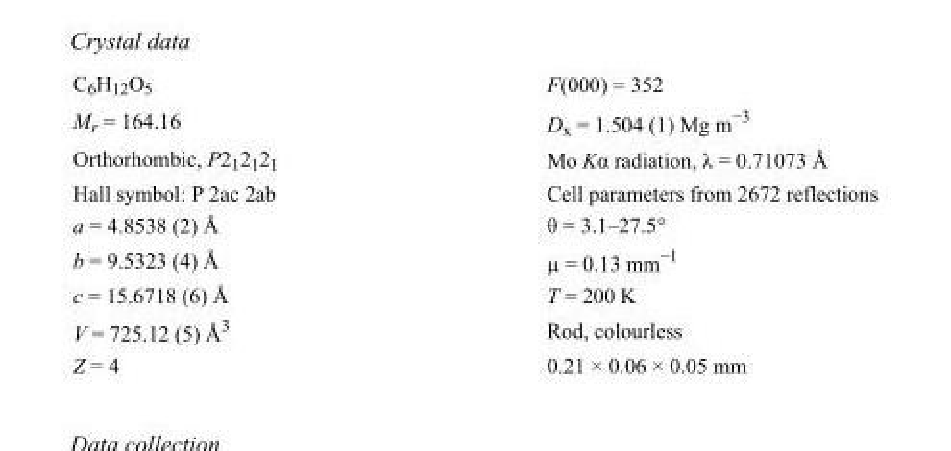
<table><tbody><tr><td>C<sub>6</sub>H<sub>12</sub>O<sub>5</sub></td><td>F(000) = 352</td></tr><tr><td>M<sub>r</sub> = 164.16</td><td>D<sub>x</sub> = 1.504 (1) Mg m<sup>−3</sup></td></tr><tr><td>Orthorhombic, P2<sub>1</sub>2<sub>1</sub>2<sub>1</sub></td><td>Mo Kα radiation, λ = 0.71073 Å</td></tr><tr><td>Hall symbol: P 2ac 2ab</td><td>Cell parameters from 2672 reflections</td></tr><tr><td>a = 4.8538 (2) Å</td><td>θ = 3.1–27.5°</td></tr><tr><td>b = 9.5323 (4) Å</td><td>µ = 0.13 mm<sup>−1</sup></td></tr><tr><td>c = 15.6718 (6) Å</td><td>T = 200 K</td></tr><tr><td>V = 725.12 (5) Å<sup>3</sup></td><td>Rod, colourless</td></tr><tr><td>Z = 4</td><td>0.21 × 0.06 × 0.05 mm</td></tr></tbody></table>